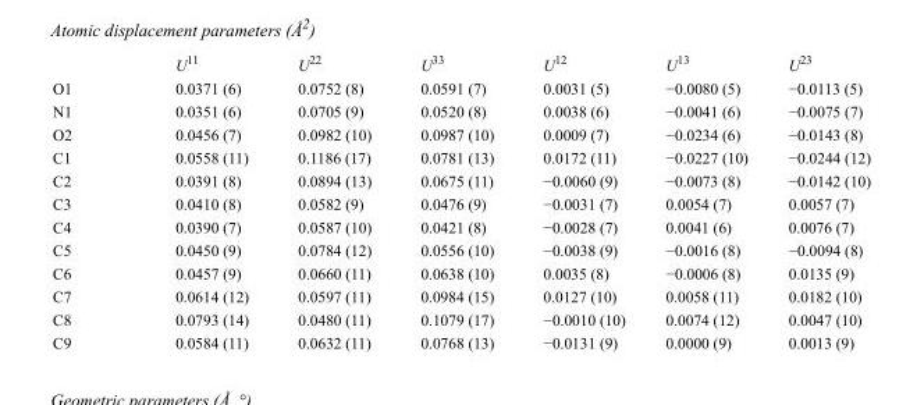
<table><thead><tr><td></td><td>U<sup>11</sup></td><td>U<sup>22</sup></td><td>U<sup>33</sup></td><td>U<sup>12</sup></td><td>U<sup>13</sup></td><td>U<sup>23</sup></td></tr></thead><tbody><tr><td>O1</td><td>0.0371 (6)</td><td>0.0752 (8)</td><td>0.0591 (7)</td><td>0.0031 (5)</td><td>−0.0080 (5)</td><td>−0.0113 (5)</td></tr><tr><td>N1</td><td>0.0351 (6)</td><td>0.0705 (9)</td><td>0.0520 (8)</td><td>0.0038 (6)</td><td>−0.0041 (6)</td><td>−0.0075 (7)</td></tr><tr><td>O2</td><td>0.0456 (7)</td><td>0.0982 (10)</td><td>0.0987 (10)</td><td>0.0009 (7)</td><td>−0.0234 (6)</td><td>−0.0143 (8)</td></tr><tr><td>C1</td><td>0.0558 (11)</td><td>0.1186 (17)</td><td>0.0781 (13)</td><td>0.0172 (11)</td><td>−0.0227 (10)</td><td>−0.0244 (12)</td></tr><tr><td>C2</td><td>0.0391 (8)</td><td>0.0894 (13)</td><td>0.0675 (11)</td><td>−0.0060 (9)</td><td>−0.0073 (8)</td><td>−0.0142 (10)</td></tr><tr><td>C3</td><td>0.0410 (8)</td><td>0.0582 (9)</td><td>0.0476 (9)</td><td>−0.0031 (7)</td><td>0.0054 (7)</td><td>0.0057 (7)</td></tr><tr><td>C4</td><td>0.0390 (7)</td><td>0.0587 (10)</td><td>0.0421 (8)</td><td>−0.0028 (7)</td><td>0.0041 (6)</td><td>0.0076 (7)</td></tr><tr><td>C5</td><td>0.0450 (9)</td><td>0.0784 (12)</td><td>0.0556 (10)</td><td>−0.0038 (9)</td><td>−0.0016 (8)</td><td>−0.0094 (8)</td></tr><tr><td>C6</td><td>0.0457 (9)</td><td>0.0660 (11)</td><td>0.0638 (10)</td><td>0.0035 (8)</td><td>−0.0006 (8)</td><td>0.0135 (9)</td></tr><tr><td>C7</td><td>0.0614 (12)</td><td>0.0597 (11)</td><td>0.0984 (15)</td><td>0.0127 (10)</td><td>0.0058 (11)</td><td>0.0182 (10)</td></tr><tr><td>C8</td><td>0.0793 (14)</td><td>0.0480 (11)</td><td>0.1079 (17)</td><td>−0.0010 (10)</td><td>0.0074 (12)</td><td>0.0047 (10)</td></tr><tr><td>C9</td><td>0.0584 (11)</td><td>0.0632 (11)</td><td>0.0768 (13)</td><td>−0.0131 (9)</td><td>0.0000 (9)</td><td>0.0013 (9)</td></tr></tbody></table>